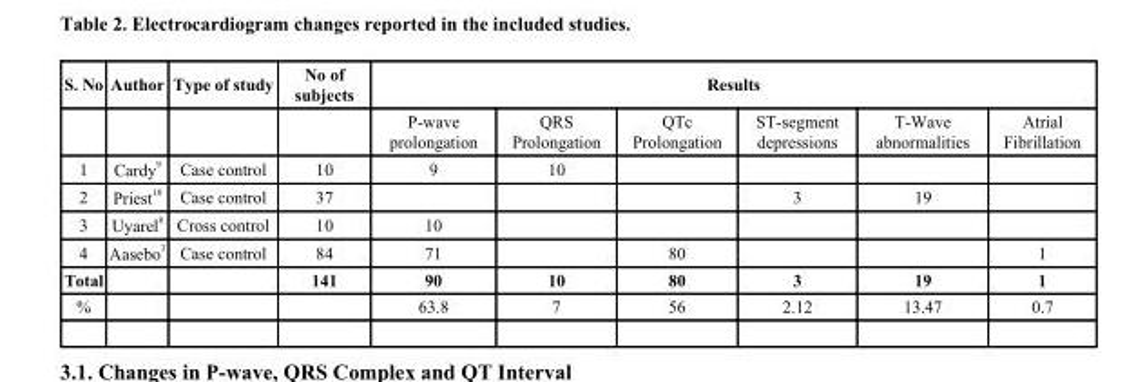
<table><thead><tr><td rowspan="2">S. No</td><td rowspan="2">Author</td><td rowspan="2">Type of study</td><td rowspan="2">No of subjects</td><td colspan="6">Results</td></tr><tr><td>P-wave prolongation</td><td>QRS Prolongation</td><td>QTc Prolongation</td><td>ST-segment depressions</td><td>T-Wave abnormalities</td><td>Atrial Fibrillation</td></tr></thead><tbody><tr><td>1</td><td>Cardy <sup>9</sup></td><td>Case control</td><td>10</td><td>9</td><td>10</td><td></td><td></td><td></td><td></td></tr><tr><td>2</td><td>Priest <sup>10</sup></td><td>Case control</td><td>37</td><td></td><td></td><td></td><td>3</td><td>19</td><td></td></tr><tr><td>3</td><td>Uyarel <sup>8</sup></td><td>Cross control</td><td>10</td><td>10</td><td></td><td></td><td></td><td></td><td></td></tr><tr><td>4</td><td>Aasebo <sup>3</sup></td><td>Case control</td><td>84</td><td>71</td><td></td><td>80</td><td></td><td></td><td>1</td></tr><tr><td>Total</td><td></td><td></td><td>141</td><td>90</td><td>10</td><td>80</td><td>3</td><td>19</td><td>1</td></tr><tr><td>%</td><td></td><td></td><td></td><td>63.8</td><td>7</td><td>56</td><td>2.12</td><td>13.47</td><td>0.7</td></tr></tbody></table>